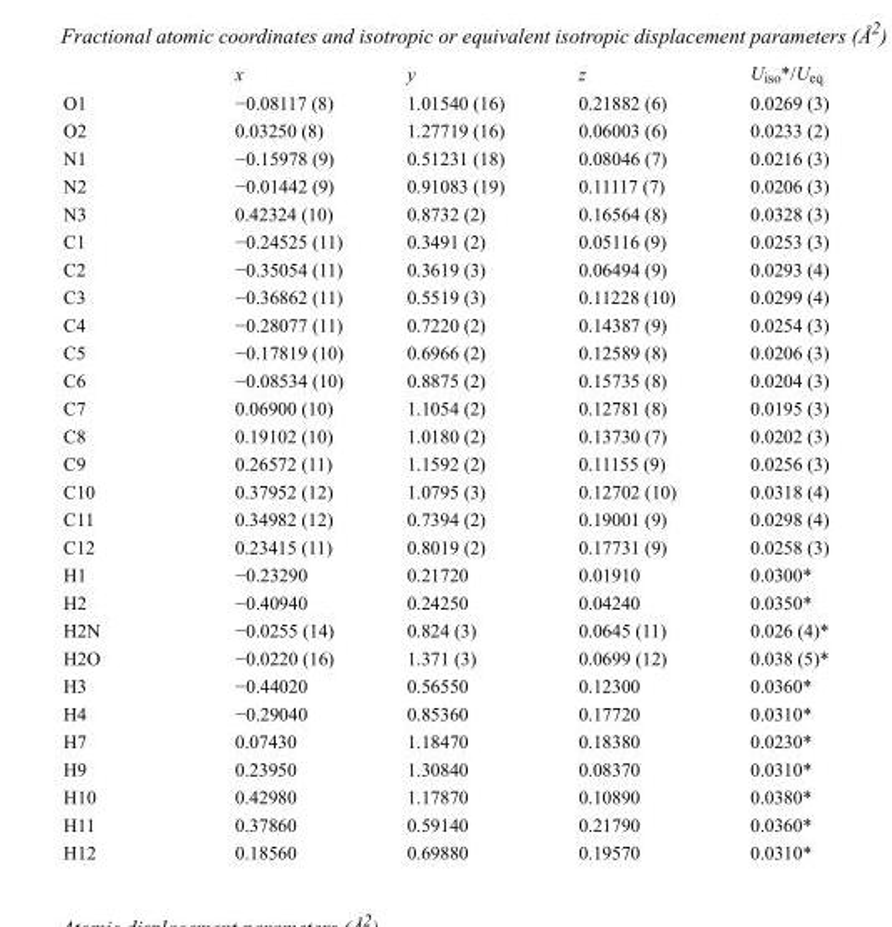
<table><thead><tr><td></td><td>x</td><td>y</td><td>z</td><td>U<sub>iso</sub>*/U<sub>eq</sub></td></tr></thead><tbody><tr><td>O1</td><td>−0.08117 (8)</td><td>1.01540 (16)</td><td>0.21882 (6)</td><td>0.0269 (3)</td></tr><tr><td>O2</td><td>0.03250 (8)</td><td>1.27719 (16)</td><td>0.06003 (6)</td><td>0.0233 (2)</td></tr><tr><td>N1</td><td>−0.15978 (9)</td><td>0.51231 (18)</td><td>0.08046 (7)</td><td>0.0216 (3)</td></tr><tr><td>N2</td><td>−0.01442 (9)</td><td>0.91083 (19)</td><td>0.11117 (7)</td><td>0.0206 (3)</td></tr><tr><td>N3</td><td>0.42324 (10)</td><td>0.8732 (2)</td><td>0.16564 (8)</td><td>0.0328 (3)</td></tr><tr><td>C1</td><td>−0.24525 (11)</td><td>0.3491 (2)</td><td>0.05116 (9)</td><td>0.0253 (3)</td></tr><tr><td>C2</td><td>−0.35054 (11)</td><td>0.3619 (3)</td><td>0.06494 (9)</td><td>0.0293 (4)</td></tr><tr><td>C3</td><td>−0.36862 (11)</td><td>0.5519 (3)</td><td>0.11228 (10)</td><td>0.0299 (4)</td></tr><tr><td>C4</td><td>−0.28077 (11)</td><td>0.7220 (2)</td><td>0.14387 (9)</td><td>0.0254 (3)</td></tr><tr><td>C5</td><td>−0.17819 (10)</td><td>0.6966 (2)</td><td>0.12589 (8)</td><td>0.0206 (3)</td></tr><tr><td>C6</td><td>−0.08534 (10)</td><td>0.8875 (2)</td><td>0.15735 (8)</td><td>0.0204 (3)</td></tr><tr><td>C7</td><td>0.06900 (10)</td><td>1.1054 (2)</td><td>0.12781 (8)</td><td>0.0195 (3)</td></tr><tr><td>C8</td><td>0.19102 (10)</td><td>1.0180 (2)</td><td>0.13730 (7)</td><td>0.0202 (3)</td></tr><tr><td>C9</td><td>0.26572 (11)</td><td>1.1592 (2)</td><td>0.11155 (9)</td><td>0.0256 (3)</td></tr><tr><td>C10</td><td>0.37952 (12)</td><td>1.0795 (3)</td><td>0.12702 (10)</td><td>0.0318 (4)</td></tr><tr><td>C11</td><td>0.34982 (12)</td><td>0.7394 (2)</td><td>0.19001 (9)</td><td>0.0298 (4)</td></tr><tr><td>C12</td><td>0.23415 (11)</td><td>0.8019 (2)</td><td>0.17731 (9)</td><td>0.0258 (3)</td></tr><tr><td>H1</td><td>−0.23290</td><td>0.21720</td><td>0.01910</td><td>0.0300*</td></tr><tr><td>H2</td><td>−0.40940</td><td>0.24250</td><td>0.04240</td><td>0.0350*</td></tr><tr><td>H2N</td><td>−0.0255 (14)</td><td>0.824 (3)</td><td>0.0645 (11)</td><td>0.026 (4)*</td></tr><tr><td>H2O</td><td>−0.0220 (16)</td><td>1.371 (3)</td><td>0.0699 (12)</td><td>0.038 (5)*</td></tr><tr><td>H3</td><td>−0.44020</td><td>0.56550</td><td>0.12300</td><td>0.0360*</td></tr><tr><td>H4</td><td>−0.29040</td><td>0.85360</td><td>0.17720</td><td>0.0310*</td></tr><tr><td>H7</td><td>0.07430</td><td>1.18470</td><td>0.18380</td><td>0.0230*</td></tr><tr><td>H9</td><td>0.23950</td><td>1.30840</td><td>0.08370</td><td>0.0310*</td></tr><tr><td>H10</td><td>0.42980</td><td>1.17870</td><td>0.10890</td><td>0.0380*</td></tr><tr><td>H11</td><td>0.37860</td><td>0.59140</td><td>0.21790</td><td>0.0360*</td></tr><tr><td>H12</td><td>0.18560</td><td>0.69880</td><td>0.19570</td><td>0.0310*</td></tr></tbody></table>